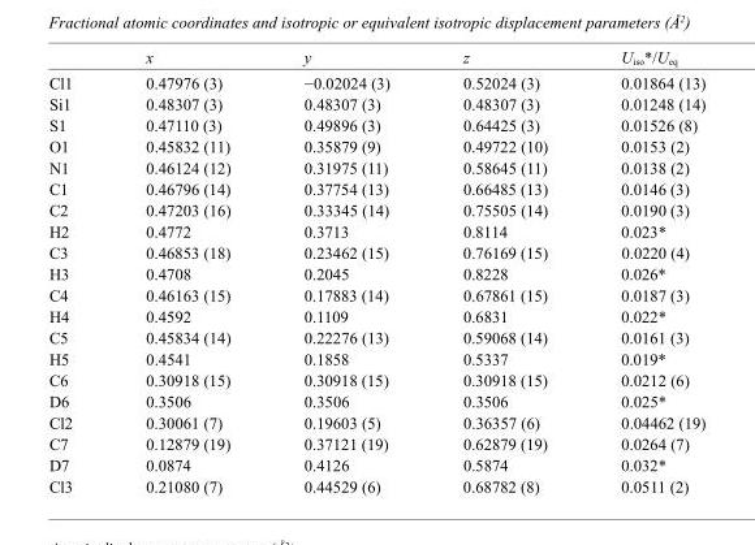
<table><thead><tr><td></td><td>x</td><td>y</td><td>z</td><td>U<sub>iso</sub>*/U<sub>eq</sub></td></tr></thead><tbody><tr><td>Cl1</td><td>0.47976 (3)</td><td>−0.02024 (3)</td><td>0.52024 (3)</td><td>0.01864 (13)</td></tr><tr><td>Si1</td><td>0.48307 (3)</td><td>0.48307 (3)</td><td>0.48307 (3)</td><td>0.01248 (14)</td></tr><tr><td>S1</td><td>0.47110 (3)</td><td>0.49896 (3)</td><td>0.64425 (3)</td><td>0.01526 (8)</td></tr><tr><td>O1</td><td>0.45832 (11)</td><td>0.35879 (9)</td><td>0.49722 (10)</td><td>0.0153 (2)</td></tr><tr><td>N1</td><td>0.46124 (12)</td><td>0.31975 (11)</td><td>0.58645 (11)</td><td>0.0138 (2)</td></tr><tr><td>C1</td><td>0.46796 (14)</td><td>0.37754 (13)</td><td>0.66485 (13)</td><td>0.0146 (3)</td></tr><tr><td>C2</td><td>0.47203 (16)</td><td>0.33345 (14)</td><td>0.75505 (14)</td><td>0.0190 (3)</td></tr><tr><td>H2</td><td>0.4772</td><td>0.3713</td><td>0.8114</td><td>0.023*</td></tr><tr><td>C3</td><td>0.46853 (18)</td><td>0.23462 (15)</td><td>0.76169 (15)</td><td>0.0220 (4)</td></tr><tr><td>H3</td><td>0.4708</td><td>0.2045</td><td>0.8228</td><td>0.026*</td></tr><tr><td>C4</td><td>0.46163 (15)</td><td>0.17883 (14)</td><td>0.67861 (15)</td><td>0.0187 (3)</td></tr><tr><td>H4</td><td>0.4592</td><td>0.1109</td><td>0.6831</td><td>0.022*</td></tr><tr><td>C5</td><td>0.45834 (14)</td><td>0.22276 (13)</td><td>0.59068 (14)</td><td>0.0161 (3)</td></tr><tr><td>H5</td><td>0.4541</td><td>0.1858</td><td>0.5337</td><td>0.019*</td></tr><tr><td>C6</td><td>0.30918 (15)</td><td>0.30918 (15)</td><td>0.30918 (15)</td><td>0.0212 (6)</td></tr><tr><td>D6</td><td>0.3506</td><td>0.3506</td><td>0.3506</td><td>0.025*</td></tr><tr><td>Cl2</td><td>0.30061 (7)</td><td>0.19603 (5)</td><td>0.36357 (6)</td><td>0.04462 (19)</td></tr><tr><td>C7</td><td>0.12879 (19)</td><td>0.37121 (19)</td><td>0.62879 (19)</td><td>0.0264 (7)</td></tr><tr><td>D7</td><td>0.0874</td><td>0.4126</td><td>0.5874</td><td>0.032*</td></tr><tr><td>Cl3</td><td>0.21080 (7)</td><td>0.44529 (6)</td><td>0.68782 (8)</td><td>0.0511 (2)</td></tr></tbody></table>